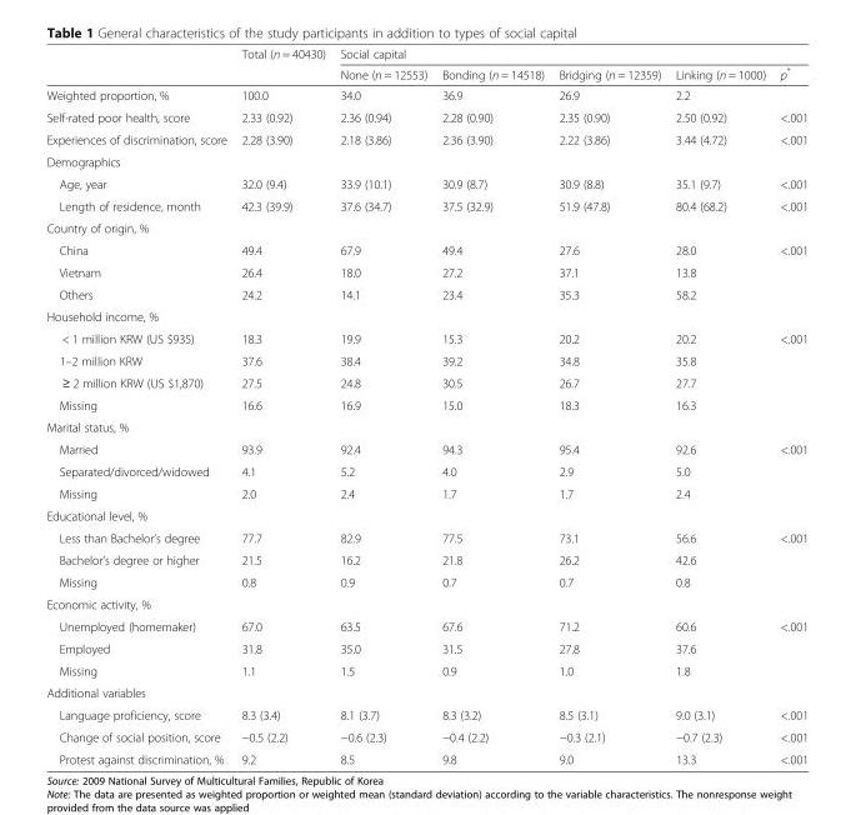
<table><thead><tr><td rowspan="2"></td><td rowspan="2">Total (n = 40430)</td><td colspan="5">Social capital</td></tr><tr><td>None (n = 12553)</td><td>Bonding (n = 14518)</td><td>Bridging (n = 12359)</td><td>Linking (n = 1000)</td><td>p*</td></tr></thead><tbody><tr><td>Weighted proportion, %</td><td>100.0</td><td>34.0</td><td>36.9</td><td>26.9</td><td>2.2</td><td></td></tr><tr><td>Self-rated poor health, score</td><td>2.33 (0.92)</td><td>2.36 (0.94)</td><td>2.28 (0.90)</td><td>2.35 (0.90)</td><td>2.50 (0.92)</td><td>&lt;.001</td></tr><tr><td>Experiences of discrimination, score</td><td>2.28 (3.90)</td><td>2.18 (3.86)</td><td>2.36 (3.90)</td><td>2.22 (3.86)</td><td>3.44 (4.72)</td><td>&lt;.001</td></tr><tr><td colspan="7">Demographics</td></tr><tr><td>Age, year</td><td>32.0 (9.4)</td><td>33.9 (10.1)</td><td>30.9 (8.7)</td><td>30.9 (8.8)</td><td>35.1 (9.7)</td><td>&lt;.001</td></tr><tr><td>Length of residence, month</td><td>42.3 (39.9)</td><td>37.6 (34.7)</td><td>37.5 (32.9)</td><td>51.9 (47.8)</td><td>80.4 (68.2)</td><td>&lt;.001</td></tr><tr><td colspan="7">Country of origin, %</td></tr><tr><td>China</td><td>49.4</td><td>67.9</td><td>49.4</td><td>27.6</td><td>28.0</td><td>&lt;.001</td></tr><tr><td>Vietnam</td><td>26.4</td><td>18.0</td><td>27.2</td><td>37.1</td><td>13.8</td><td></td></tr><tr><td>Others</td><td>24.2</td><td>14.1</td><td>23.4</td><td>35.3</td><td>58.2</td><td></td></tr><tr><td colspan="7">Household income, %</td></tr><tr><td>&lt; 1 million KRW (US $935)</td><td>18.3</td><td>19.9</td><td>15.3</td><td>20.2</td><td>20.2</td><td>&lt;.001</td></tr><tr><td>1–2 million KRW</td><td>37.6</td><td>38.4</td><td>39.2</td><td>34.8</td><td>35.8</td><td></td></tr><tr><td>≥ 2 million KRW (US $1,870)</td><td>27.5</td><td>24.8</td><td>30.5</td><td>26.7</td><td>27.7</td><td></td></tr><tr><td>Missing</td><td>16.6</td><td>16.9</td><td>15.0</td><td>18.3</td><td>16.3</td><td></td></tr><tr><td colspan="7">Marital status, %</td></tr><tr><td>Married</td><td>93.9</td><td>92.4</td><td>94.3</td><td>95.4</td><td>92.6</td><td>&lt;.001</td></tr><tr><td>Separated/divorced/widowed</td><td>4.1</td><td>5.2</td><td>4.0</td><td>2.9</td><td>5.0</td><td></td></tr><tr><td>Missing</td><td>2.0</td><td>2.4</td><td>1.7</td><td>1.7</td><td>2.4</td><td></td></tr><tr><td colspan="7">Educational level, %</td></tr><tr><td>Less than Bachelor’s degree</td><td>77.7</td><td>82.9</td><td>77.5</td><td>73.1</td><td>56.6</td><td>&lt;.001</td></tr><tr><td>Bachelor’s degree or higher</td><td>21.5</td><td>16.2</td><td>21.8</td><td>26.2</td><td>42.6</td><td></td></tr><tr><td>Missing</td><td>0.8</td><td>0.9</td><td>0.7</td><td>0.7</td><td>0.8</td><td></td></tr><tr><td colspan="7">Economic activity, %</td></tr><tr><td>Unemployed (homemaker)</td><td>67.0</td><td>63.5</td><td>67.6</td><td>71.2</td><td>60.6</td><td>&lt;.001</td></tr><tr><td>Employed</td><td>31.8</td><td>35.0</td><td>31.5</td><td>27.8</td><td>37.6</td><td></td></tr><tr><td>Missing</td><td>1.1</td><td>1.5</td><td>0.9</td><td>1.0</td><td>1.8</td><td></td></tr><tr><td colspan="7">Additional variables</td></tr><tr><td>Language proficiency, score</td><td>8.3 (3.4)</td><td>8.1 (3.7)</td><td>8.3 (3.2)</td><td>8.5 (3.1)</td><td>9.0 (3.1)</td><td>&lt;.001</td></tr><tr><td>Change of social position, score</td><td>−0.5 (2.2)</td><td>−0.6 (2.3)</td><td>−0.4 (2.2)</td><td>−0.3 (2.1)</td><td>−0.7 (2.3)</td><td>&lt;.001</td></tr><tr><td>Protest against discrimination, %</td><td>9.2</td><td>8.5</td><td>9.8</td><td>9.0</td><td>13.3</td><td>&lt;.001</td></tr></tbody></table>